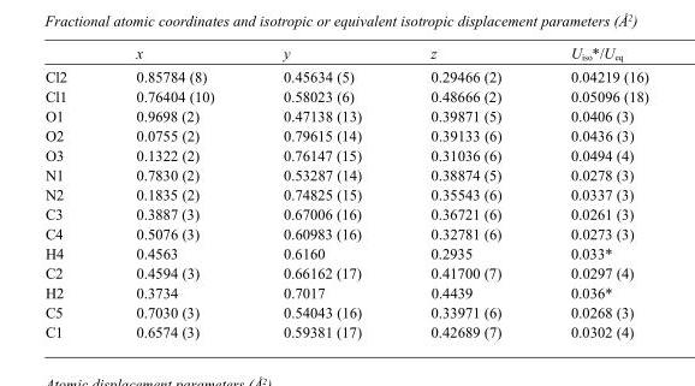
<table><thead><tr><td></td><td>x</td><td>y</td><td>z</td><td>U<sub>iso</sub>*/U<sub>eq</sub></td></tr></thead><tbody><tr><td>Cl2</td><td>0.85784 (8)</td><td>0.45634 (5)</td><td>0.29466 (2)</td><td>0.04219 (16)</td></tr><tr><td>Cl1</td><td>0.76404 (10)</td><td>0.58023 (6)</td><td>0.48666 (2)</td><td>0.05096 (18)</td></tr><tr><td>O1</td><td>0.9698 (2)</td><td>0.47138 (13)</td><td>0.39871 (5)</td><td>0.0406 (3)</td></tr><tr><td>O2</td><td>0.0755 (2)</td><td>0.79615 (14)</td><td>0.39133 (6)</td><td>0.0436 (3)</td></tr><tr><td>O3</td><td>0.1322 (2)</td><td>0.76147 (15)</td><td>0.31036 (6)</td><td>0.0494 (4)</td></tr><tr><td>N1</td><td>0.7830 (2)</td><td>0.53287 (14)</td><td>0.38874 (5)</td><td>0.0278 (3)</td></tr><tr><td>N2</td><td>0.1835 (2)</td><td>0.74825 (15)</td><td>0.35543 (6)</td><td>0.0337 (3)</td></tr><tr><td>C3</td><td>0.3887 (3)</td><td>0.67006 (16)</td><td>0.36721 (6)</td><td>0.0261 (3)</td></tr><tr><td>C4</td><td>0.5076 (3)</td><td>0.60983 (16)</td><td>0.32781 (6)</td><td>0.0273 (3)</td></tr><tr><td>H4</td><td>0.4563</td><td>0.6160</td><td>0.2935</td><td>0.033*</td></tr><tr><td>C2</td><td>0.4594 (3)</td><td>0.66162 (17)</td><td>0.41700 (7)</td><td>0.0297 (4)</td></tr><tr><td>H2</td><td>0.3734</td><td>0.7017</td><td>0.4439</td><td>0.036*</td></tr><tr><td>C5</td><td>0.7030 (3)</td><td>0.54043 (16)</td><td>0.33971 (6)</td><td>0.0268 (3)</td></tr><tr><td>C1</td><td>0.6574 (3)</td><td>0.59381 (17)</td><td>0.42689 (7)</td><td>0.0302 (4)</td></tr></tbody></table>